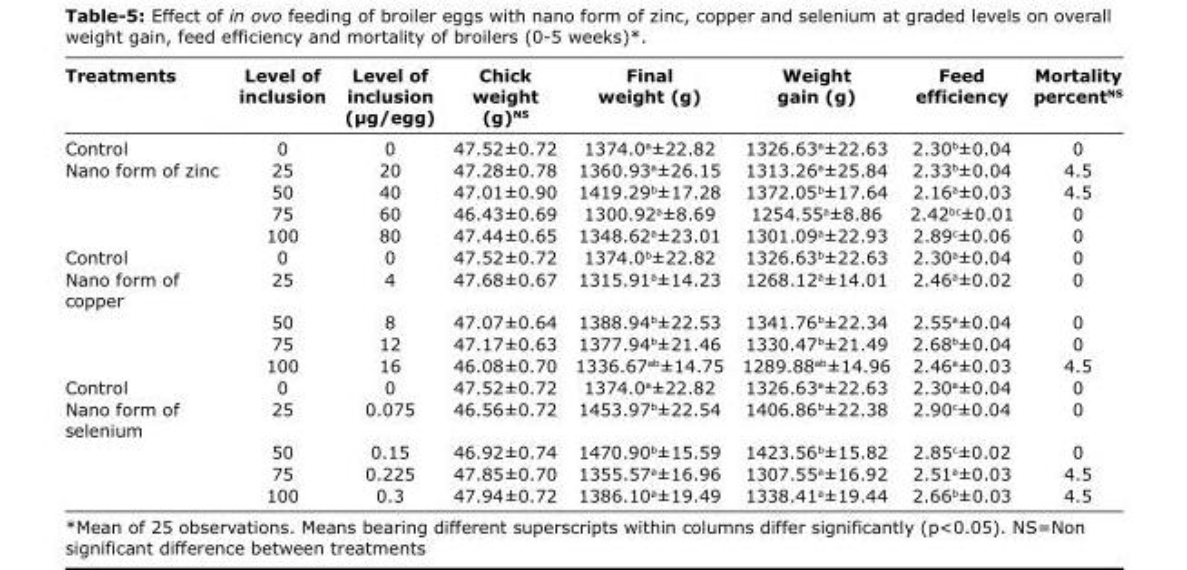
<table><thead><tr><td>Treatments</td><td>Level of inclusion</td><td>Level of inclusion (µg/egg)</td><td>Chick weight (g)<sup>NS</sup></td><td>Final weight (g)</td><td>Weight gain (g)</td><td>Feed efficiency</td><td>Mortality percent<sup>NS</sup></td></tr></thead><tbody><tr><td>Control</td><td>0</td><td>0</td><td>47.52±0.72</td><td>1374.0<sup>a</sup>±22.82</td><td>1326.63<sup>a</sup>±22.63</td><td>2.30<sup>b</sup>±0.04</td><td>0</td></tr><tr><td rowspan="4">Nano form of zinc</td><td>25</td><td>20</td><td>47.28±0.78</td><td>1360.93<sup>a</sup>±26.15</td><td>1313.26<sup>a</sup>±25.84</td><td>2.33<sup>b</sup>±0.04</td><td>4.5</td></tr><tr><td>50</td><td>40</td><td>47.01±0.90</td><td>1419.29<sup>b</sup>±17.28</td><td>1372.05<sup>b</sup>±17.64</td><td>2.16<sup>a</sup>±0.03</td><td>4.5</td></tr><tr><td>75</td><td>60</td><td>46.43±0.69</td><td>1300.92<sup>a</sup>±8.69</td><td>1254.55<sup>a</sup>±8.86</td><td>2.42<sup>bc</sup>±0.01</td><td>0</td></tr><tr><td>100</td><td>80</td><td>47.44±0.65</td><td>1348.62<sup>a</sup>±23.01</td><td>1301.09<sup>a</sup>±22.93</td><td>2.89<sup>c</sup>±0.06</td><td>0</td></tr><tr><td>Control</td><td>0</td><td>0</td><td>47.52±0.72</td><td>1374.0<sup>b</sup>±22.82</td><td>1326.63<sup>b</sup>±22.63</td><td>2.30<sup>a</sup>±0.04</td><td>0</td></tr><tr><td rowspan="4">Nano form of copper</td><td>25</td><td>4</td><td>47.68±0.67</td><td>1315.91<sup>a</sup>±14.23</td><td>1268.12<sup>a</sup>±14.01</td><td>2.46<sup>a</sup>±0.02</td><td>0</td></tr><tr><td>50</td><td>8</td><td>47.07±0.64</td><td>1388.94<sup>b</sup>±22.53</td><td>1341.76<sup>b</sup>±22.34</td><td>2.55<sup>a</sup>±0.04</td><td>0</td></tr><tr><td>75</td><td>12</td><td>47.17±0.63</td><td>1377.94<sup>b</sup>±21.46</td><td>1330.47<sup>b</sup>±21.49</td><td>2.68<sup>b</sup>±0.04</td><td>0</td></tr><tr><td>100</td><td>16</td><td>46.08±0.70</td><td>1336.67<sup>ab</sup>±14.75</td><td>1289.88<sup>ab</sup>±14.96</td><td>2.46<sup>a</sup>±0.03</td><td>4.5</td></tr><tr><td>Control</td><td>0</td><td>0</td><td>47.52±0.72</td><td>1374.0<sup>a</sup>±22.82</td><td>1326.63<sup>a</sup>±22.63</td><td>2.30<sup>a</sup>±0.04</td><td>0</td></tr><tr><td rowspan="4">Nano form of selenium</td><td>25</td><td>0.075</td><td>46.56±0.72</td><td>1453.97<sup>b</sup>±22.54</td><td>1406.86<sup>b</sup>±22.38</td><td>2.90<sup>c</sup>±0.04</td><td>0</td></tr><tr><td>50</td><td>0.15</td><td>46.92±0.74</td><td>1470.90<sup>b</sup>±15.59</td><td>1423.56<sup>b</sup>±15.82</td><td>2.85<sup>c</sup>±0.02</td><td>0</td></tr><tr><td>75</td><td>0.225</td><td>47.85±0.70</td><td>1355.57<sup>a</sup>±16.96</td><td>1307.55<sup>a</sup>±16.92</td><td>2.51<sup>a</sup>±0.03</td><td>4.5</td></tr><tr><td>100</td><td>0.3</td><td>47.94±0.72</td><td>1386.10<sup>a</sup>±19.49</td><td>1338.41<sup>a</sup>±19.44</td><td>2.66<sup>b</sup>±0.03</td><td>4.5</td></tr></tbody></table>